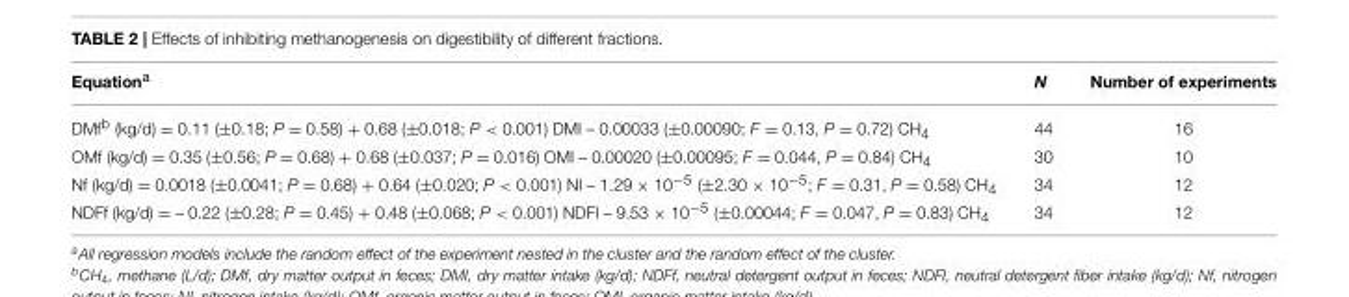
<table><thead><tr><td>Equation<sup>a</sup></td><td>N</td><td>Number of experiments</td></tr></thead><tbody><tr><td>DMf<sup>b</sup> (kg/d) = 0.11 (±0.18; P = 0.58) + 0.68 (±0.018; P &lt; 0.001) DMI – 0.00033 (±0.00090; F = 0.13, P = 0.72) CH<sub>4</sub></td><td>44</td><td>16</td></tr><tr><td>OMf (kg/d) = 0.35 (±0.56; P = 0.68) + 0.68 (±0.037; P = 0.016) OMI – 0.00020 (±0.00095; F = 0.044, P = 0.84) CH<sub>4</sub></td><td>30</td><td>10</td></tr><tr><td>Nf (kg/d) = 0.0018 (±0.0041; P = 0.68) + 0.64 (±0.020; P &lt; 0.001) NI – 1.29 × 10<sup>−5</sup> (±2.30 × 10<sup>−5</sup>; F = 0.31, P = 0.58) CH<sub>4</sub></td><td>34</td><td>12</td></tr><tr><td>NDFf (kg/d) = – 0.22 (±0.28; P = 0.45) + 0.48 (±0.068; P &lt; 0.001) NDFI – 9.53 × 10<sup>−5</sup> (±0.00044; F = 0.047, P = 0.83) CH<sub>4</sub></td><td>34</td><td>12</td></tr></tbody></table>